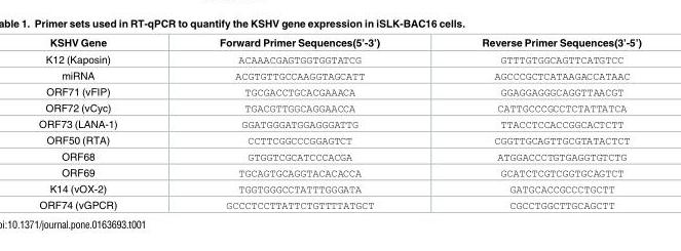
<table><thead><tr><td>KSHV Gene</td><td>Forward Primer Sequences(5’-3’)</td><td>Reverse Primer Sequences(3’-5’)</td></tr></thead><tbody><tr><td>K12 (Kaposin)</td><td>ACAAACGAGTGGTGGTATCG</td><td>GTTTGTGGCAGTTCATGTCC</td></tr><tr><td>miRNA</td><td>ACGTGTTGCCAAGGTAGCATT</td><td>AGCCCGCTCATAAGACCATAAC</td></tr><tr><td>ORF71 (vFIP)</td><td>TGCGACCTGCACGAAACA</td><td>GGAGGAGGGCAGGTTAACGT</td></tr><tr><td>ORF72 (vCyc)</td><td>TGACGTTGGCAGGAACCA</td><td>CATTGCCCGCCTCTATTATCA</td></tr><tr><td>ORF73 (LANA-1)</td><td>GGATGGGATGGAGGGATTG</td><td>TTACCTCCACCGGCACTCTT</td></tr><tr><td>ORF50 (RTA)</td><td>CCTTCGGCCCGGAGTCT</td><td>CGGTTGCAGTTGCGTATACTCT</td></tr><tr><td>ORF68</td><td>GTGGTCGCATCCCACGA</td><td>ATGGACCCTGTGAGGTGTCTG</td></tr><tr><td>ORF69</td><td>TGCAGTGCAGGTACACACCA</td><td>GCATCTCGTCGGTGCAGTCT</td></tr><tr><td>K14 (vOX-2)</td><td>TGGTGGGCCTATTTGGGATA</td><td>GATGCACCGCCCTGCTT</td></tr><tr><td>ORF74 (vGPCR)</td><td>GCCCTCCTTATTCTGTTTTATGCT</td><td>CGCCTGGCTTGCAGCTT</td></tr></tbody></table>